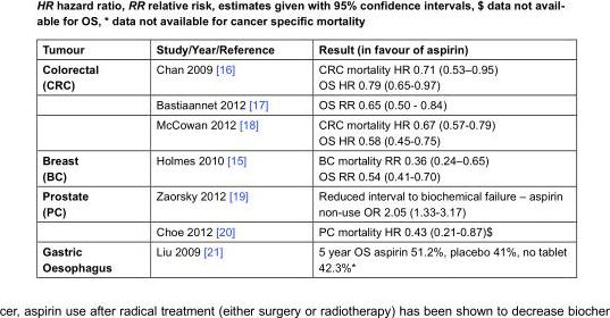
<table><thead><tr><td>Tumour</td><td>Study/Year/Reference</td><td>Result (in favour of aspirin)</td></tr></thead><tbody><tr><td rowspan="3">Colorectal (CRC)</td><td>Chan 2009 [16]</td><td>CRC mortality HR 0.71 (0.53–0.95) OS HR 0.79 (0.65-0.97)</td></tr><tr><td>Bastiaannet 2012 [17]</td><td>OS RR 0.65 (0.50 - 0.84)</td></tr><tr><td>McCowan 2012 [18]</td><td>CRC mortality HR 0.67 (0.57-0.79) OS HR 0.58 (0.45-0.75)</td></tr><tr><td>Breast (BC)</td><td>Holmes 2010 [15]</td><td>BC mortality RR 0.36 (0.24–0.65) OS RR 0.54 (0.41-0.70)</td></tr><tr><td rowspan="2">Prostate (PC)</td><td>Zaorsky 2012 [19]</td><td>Reduced interval to biochemical failure – aspirin non-use OR 2.05 (1.33-3.17)</td></tr><tr><td>Choe 2012 [20]</td><td>PC mortality HR 0.43 (0.21-0.87)$</td></tr><tr><td>Gastric Oesophagus</td><td>Liu 2009 [21]</td><td>5 year OS aspirin 51.2%, placebo 41%, no tablet 42.3%*</td></tr></tbody></table>